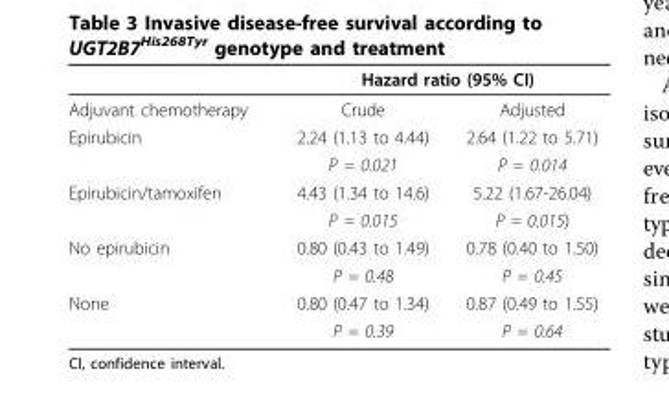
<table><thead><tr><td rowspan="2">Adjuvant chemotherapy</td><td colspan="2">Hazard ratio (95% CI)</td></tr><tr><td>Crude</td><td>Adjusted</td></tr></thead><tbody><tr><td rowspan="2">Epirubicin</td><td>2.24 (1.13 to 4.44)</td><td>2.64 (1.22 to 5.71)</td></tr><tr><td>P = 0.021</td><td>P = 0.014</td></tr><tr><td rowspan="2">Epirubicin/tamoxifen</td><td>4.43 (1.34 to 14.6)</td><td>5.22 (1.67-26.04)</td></tr><tr><td>P = 0.015</td><td>P = 0.015)</td></tr><tr><td rowspan="2">No epirubicin</td><td>0.80 (0.43 to 1.49)</td><td>0.78 (0.40 to 1.50)</td></tr><tr><td>P = 0.48</td><td>P = 0.45</td></tr><tr><td rowspan="2">None</td><td>0.80 (0.47 to 1.34)</td><td>0.87 (0.49 to 1.55)</td></tr><tr><td>P = 0.39</td><td>P = 0.64</td></tr></tbody></table>